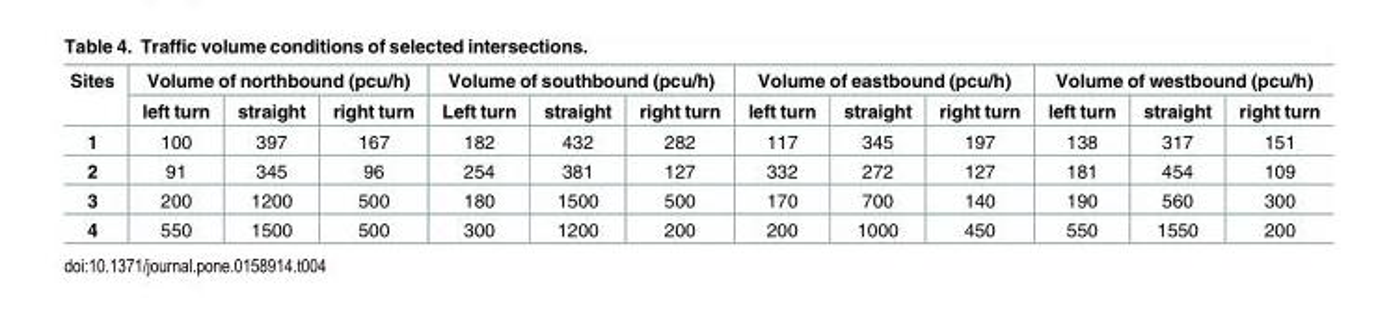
<table><thead><tr><td rowspan="2">Sites</td><td colspan="3">Volume of northbound (pcu/h)</td><td colspan="3">Volume of southbound (pcu/h)</td><td colspan="3">Volume of eastbound (pcu/h)</td><td colspan="3">Volume of westbound (pcu/h)</td></tr><tr><td>left turn</td><td>straight</td><td>right turn</td><td>Left turn</td><td>straight</td><td>right turn</td><td>left turn</td><td>straight</td><td>right turn</td><td>left turn</td><td>straight</td><td>right turn</td></tr></thead><tbody><tr><td>1</td><td>100</td><td>397</td><td>167</td><td>182</td><td>432</td><td>282</td><td>117</td><td>345</td><td>197</td><td>138</td><td>317</td><td>151</td></tr><tr><td>2</td><td>91</td><td>345</td><td>96</td><td>254</td><td>381</td><td>127</td><td>332</td><td>272</td><td>127</td><td>181</td><td>454</td><td>109</td></tr><tr><td>3</td><td>200</td><td>1200</td><td>500</td><td>180</td><td>1500</td><td>500</td><td>170</td><td>700</td><td>140</td><td>190</td><td>560</td><td>300</td></tr><tr><td>4</td><td>550</td><td>1500</td><td>500</td><td>300</td><td>1200</td><td>200</td><td>200</td><td>1000</td><td>450</td><td>550</td><td>1550</td><td>200</td></tr></tbody></table>